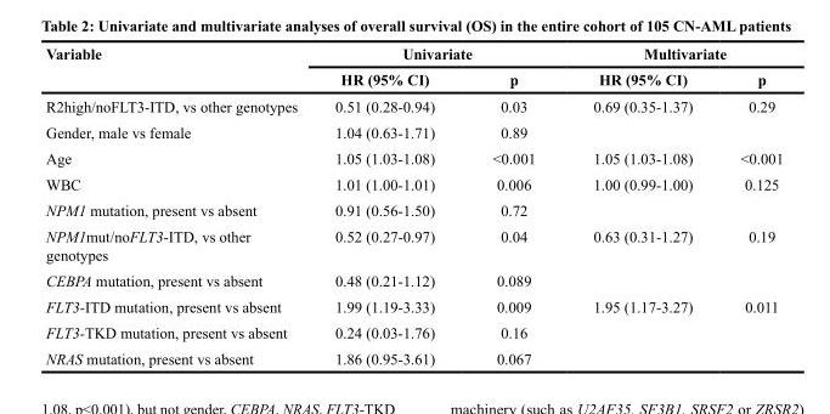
<table><thead><tr><td rowspan="2">Variable</td><td colspan="2">Univariate</td><td colspan="2">Multivariate</td></tr><tr><td>HR (95% CI)</td><td>p</td><td>HR (95% CI)</td><td>p</td></tr></thead><tbody><tr><td>R2high/noFLT3-ITD, vs other genotypes</td><td>0.51 (0.28-0.94)</td><td>0.03</td><td>0.69 (0.35-1.37)</td><td>0.29</td></tr><tr><td>Gender, male vs female</td><td>1.04 (0.63-1.71)</td><td>0.89</td><td></td><td></td></tr><tr><td>Age</td><td>1.05 (1.03-1.08)</td><td>&lt;0.001</td><td>1.05 (1.03-1.08)</td><td>&lt;0.001</td></tr><tr><td>WBC</td><td>1.01 (1.00-1.01)</td><td>0.006</td><td>1.00 (0.99-1.00)</td><td>0.125</td></tr><tr><td>NPM1 mutation, present vs absent</td><td>0.91 (0.56-1.50)</td><td>0.72</td><td></td><td></td></tr><tr><td>NPM1mut/noFLT3-ITD, vs other genotypes</td><td>0.52 (0.27-0.97)</td><td>0.04</td><td>0.63 (0.31-1.27)</td><td>0.19</td></tr><tr><td>CEBPA mutation, present vs absent</td><td>0.48 (0.21-1.12)</td><td>0.089</td><td></td><td></td></tr><tr><td>FLT3-ITD mutation, present vs absent</td><td>1.99 (1.19-3.33)</td><td>0.009</td><td>1.95 (1.17-3.27)</td><td>0.011</td></tr><tr><td>FLT3-TKD mutation, present vs absent</td><td>0.24 (0.03-1.76)</td><td>0.16</td><td></td><td></td></tr><tr><td>NRAS mutation, present vs absent</td><td>1.86 (0.95-3.61)</td><td>0.067</td><td></td><td></td></tr></tbody></table>